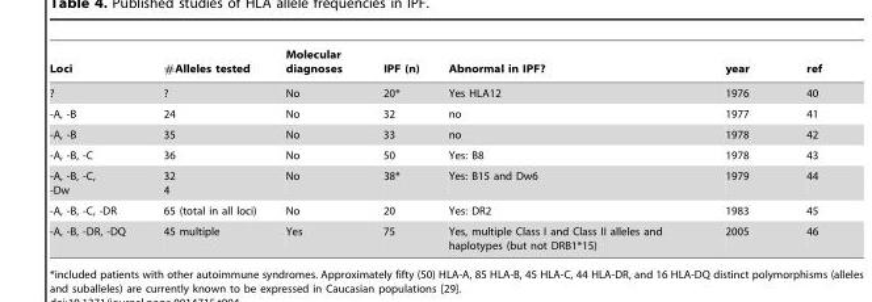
<table><thead><tr><td>Loci</td><td>#Alleles tested</td><td>Molecular diagnoses</td><td>IPF (n)</td><td>Abnormal in IPF?</td><td>year</td><td>ref</td></tr></thead><tbody><tr><td>?</td><td>?</td><td>No</td><td>20*</td><td>Yes HLA12</td><td>1976</td><td>40</td></tr><tr><td>-A, -B</td><td>24</td><td>No</td><td>32</td><td>no</td><td>1977</td><td>41</td></tr><tr><td>-A, -B</td><td>35</td><td>No</td><td>33</td><td>no</td><td>1978</td><td>42</td></tr><tr><td>-A, -B, -C</td><td>36</td><td>No</td><td>50</td><td>Yes: B8</td><td>1978</td><td>43</td></tr><tr><td>-A, -B, -C, -Dw</td><td>32 4</td><td>No</td><td>38*</td><td>Yes: B15 and Dw6</td><td>1979</td><td>44</td></tr><tr><td>-A, -B, -C, -DR</td><td>65 (total in all loci)</td><td>No</td><td>20</td><td>Yes: DR2</td><td>1983</td><td>45</td></tr><tr><td>-A, -B, -DR, -DQ</td><td>45 multiple</td><td>Yes</td><td>75</td><td>Yes, multiple Class I and Class II alleles and haplotypes (but not DRB1*15)</td><td>2005</td><td>46</td></tr></tbody></table>